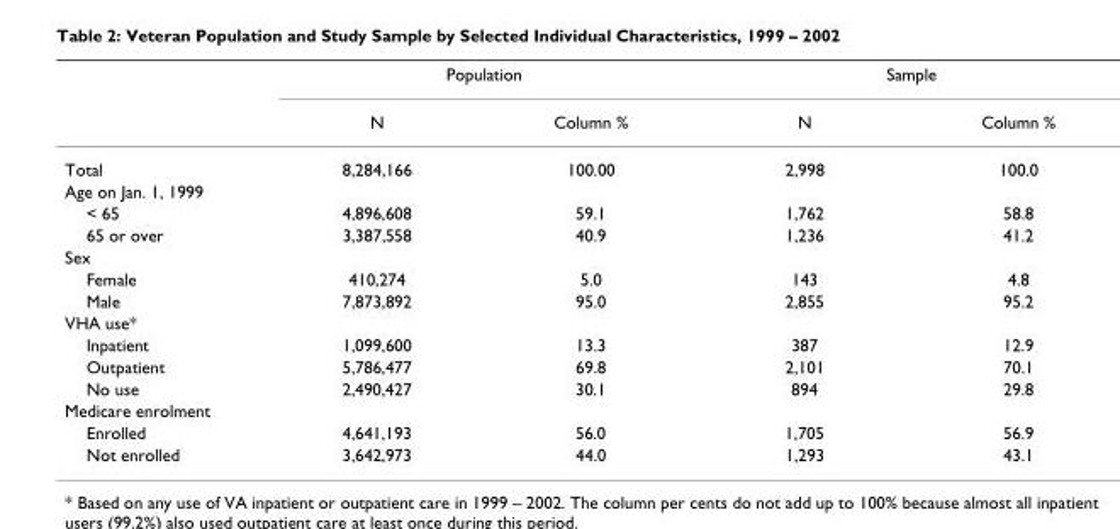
<table><thead><tr><td rowspan="2"></td><td colspan="2">Population</td><td colspan="2">Sample</td></tr><tr><td>N</td><td>Column %</td><td>N</td><td>Column %</td></tr></thead><tbody><tr><td>Total</td><td>8,284,166</td><td>100.00</td><td>2,998</td><td>100.0</td></tr><tr><td colspan="5">Age on Jan. 1, 1999</td></tr><tr><td>&lt; 65</td><td>4,896,608</td><td>59.1</td><td>1,762</td><td>58.8</td></tr><tr><td>65 or over</td><td>3,387,558</td><td>40.9</td><td>1,236</td><td>41.2</td></tr><tr><td colspan="5">Sex</td></tr><tr><td>Female</td><td>410,274</td><td>5.0</td><td>143</td><td>4.8</td></tr><tr><td>Male</td><td>7,873,892</td><td>95.0</td><td>2,855</td><td>95.2</td></tr><tr><td colspan="5">VHA use*</td></tr><tr><td>Inpatient</td><td>1,099,600</td><td>13.3</td><td>387</td><td>12.9</td></tr><tr><td>Outpatient</td><td>5,786,477</td><td>69.8</td><td>2,101</td><td>70.1</td></tr><tr><td>No use</td><td>2,490,427</td><td>30.1</td><td>894</td><td>29.8</td></tr><tr><td colspan="5">Medicare enrolment</td></tr><tr><td>Enrolled</td><td>4,641,193</td><td>56.0</td><td>1,705</td><td>56.9</td></tr><tr><td>Not enrolled</td><td>3,642,973</td><td>44.0</td><td>1,293</td><td>43.1</td></tr></tbody></table>